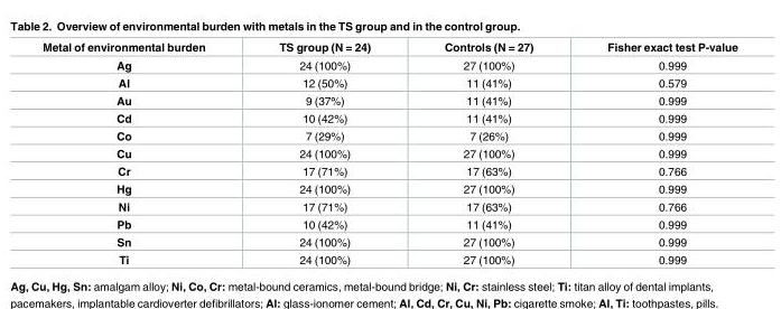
<table><thead><tr><td>Metal of environmental burden</td><td>TS group (N = 24)</td><td>Controls (N = 27)</td><td>Fisher exact test P-value</td></tr></thead><tbody><tr><td>Ag</td><td>24 (100%)</td><td>27 (100%)</td><td>0.999</td></tr><tr><td>Al</td><td>12 (50%)</td><td>11 (41%)</td><td>0.579</td></tr><tr><td>Au</td><td>9 (37%)</td><td>11 (41%)</td><td>0.999</td></tr><tr><td>Cd</td><td>10 (42%)</td><td>11 (41%)</td><td>0.999</td></tr><tr><td>Co</td><td>7 (29%)</td><td>7 (26%)</td><td>0.999</td></tr><tr><td>Cu</td><td>24 (100%)</td><td>27 (100%)</td><td>0.999</td></tr><tr><td>Cr</td><td>17 (71%)</td><td>17 (63%)</td><td>0.766</td></tr><tr><td>Hg</td><td>24 (100%)</td><td>27 (100%)</td><td>0.999</td></tr><tr><td>Ni</td><td>17 (71%)</td><td>17 (63%)</td><td>0.766</td></tr><tr><td>Pb</td><td>10 (42%)</td><td>11 (41%)</td><td>0.999</td></tr><tr><td>Sn</td><td>24 (100%)</td><td>27 (100%)</td><td>0.999</td></tr><tr><td>Ti</td><td>24 (100%)</td><td>27 (100%)</td><td>0.999</td></tr></tbody></table>